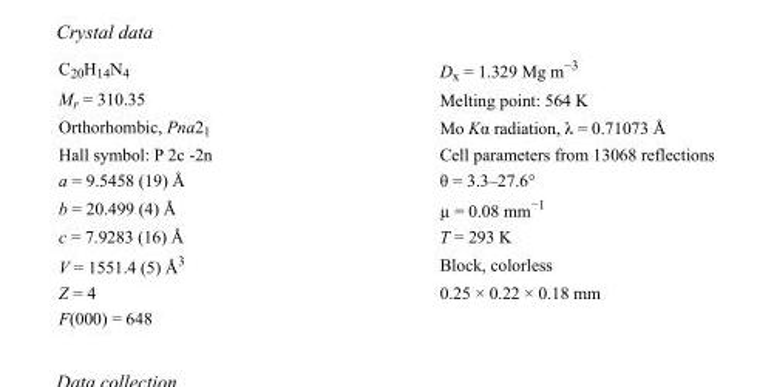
<table><tbody><tr><td>C<sub>20</sub>H<sub>14</sub>N<sub>4</sub></td><td>D<sub>x</sub> = 1.329 Mg m<sup>−3</sup></td></tr><tr><td>M<sub>r</sub> = 310.35</td><td>Melting point: 564 K</td></tr><tr><td>Orthorhombic, Pna2<sub>1</sub></td><td>Mo Kα radiation, λ = 0.71073 Å</td></tr><tr><td>Hall symbol: P 2c -2n</td><td>Cell parameters from 13068 reflections</td></tr><tr><td>a = 9.5458 (19) Å</td><td>θ = 3.3–27.6°</td></tr><tr><td>b = 20.499 (4) Å</td><td>µ = 0.08 mm<sup>−1</sup></td></tr><tr><td>c = 7.9283 (16) Å</td><td>T = 293 K</td></tr><tr><td>V = 1551.4 (5) Å<sup>3</sup></td><td>Block, colorless</td></tr><tr><td>Z = 4</td><td>0.25 × 0.22 × 0.18 mm</td></tr><tr><td>F(000) = 648</td><td></td></tr></tbody></table>